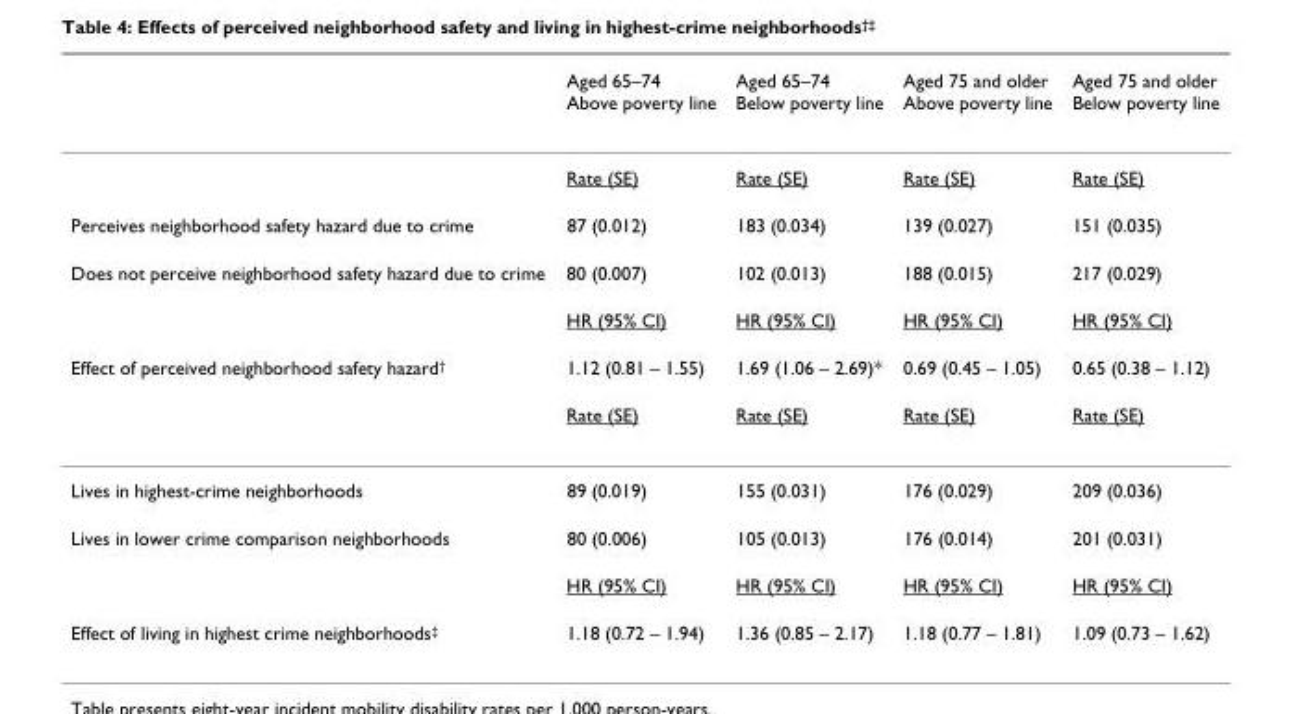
<table><thead><tr><td></td><td>Aged 65–74 Above poverty line</td><td>Aged 65–74 Below poverty line</td><td>Aged 75 and older Above poverty line</td><td>Aged 75 and older Below poverty line</td></tr></thead><tbody><tr><td></td><td>Rate (SE)</td><td>Rate (SE)</td><td>Rate (SE)</td><td>Rate (SE)</td></tr><tr><td>Perceives neighborhood safety hazard due to crime</td><td>87 (0.012)</td><td>183 (0.034)</td><td>139 (0.027)</td><td>151 (0.035)</td></tr><tr><td rowspan="2">Does not perceive neighborhood safety hazard due to crime</td><td>80 (0.007)</td><td>102 (0.013)</td><td>188 (0.015)</td><td>217 (0.029)</td></tr><tr><td>HR (95% CI)</td><td>HR (95% CI)</td><td>HR (95% CI)</td><td>HR (95% CI)</td></tr><tr><td rowspan="2">Effect of perceived neighborhood safety hazard<sup>†</sup></td><td>1.12 (0.81 – 1.55)</td><td>1.69 (1.06 – 2.69)*</td><td>0.69 (0.45 – 1.05)</td><td>0.65 (0.38 – 1.12)</td></tr><tr><td>Rate (SE)</td><td>Rate (SE)</td><td>Rate (SE)</td><td>Rate (SE)</td></tr><tr><td>Lives in highest-crime neighborhoods</td><td>89 (0.019)</td><td>155 (0.031)</td><td>176 (0.029)</td><td>209 (0.036)</td></tr><tr><td rowspan="2">Lives in lower crime comparison neighborhoods</td><td>80 (0.006)</td><td>105 (0.013)</td><td>176 (0.014)</td><td>201 (0.031)</td></tr><tr><td>HR (95% CI)</td><td>HR (95% CI)</td><td>HR (95% CI)</td><td>HR (95% CI)</td></tr><tr><td>Effect of living in highest crime neighborhoods<sup>‡</sup></td><td>1.18 (0.72 – 1.94)</td><td>1.36 (0.85 – 2.17)</td><td>1.18 (0.77 – 1.81)</td><td>1.09 (0.73 – 1.62)</td></tr></tbody></table>